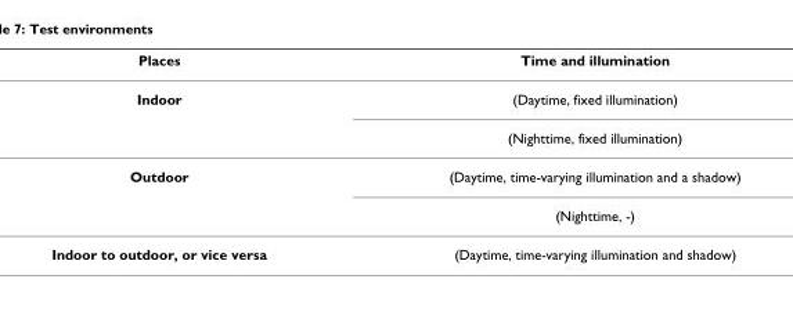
<table><thead><tr><td>Places</td><td>Time and illumination</td></tr></thead><tbody><tr><td rowspan="2">Indoor</td><td>(Daytime, fixed illumination)</td></tr><tr><td>(Nighttime, fixed illumination)</td></tr><tr><td rowspan="2">Outdoor</td><td>(Daytime, time-varying illumination and a shadow)</td></tr><tr><td>(Nighttime, -)</td></tr><tr><td>Indoor to outdoor, or vice versa</td><td>(Daytime, time-varying illumination and shadow)</td></tr></tbody></table>